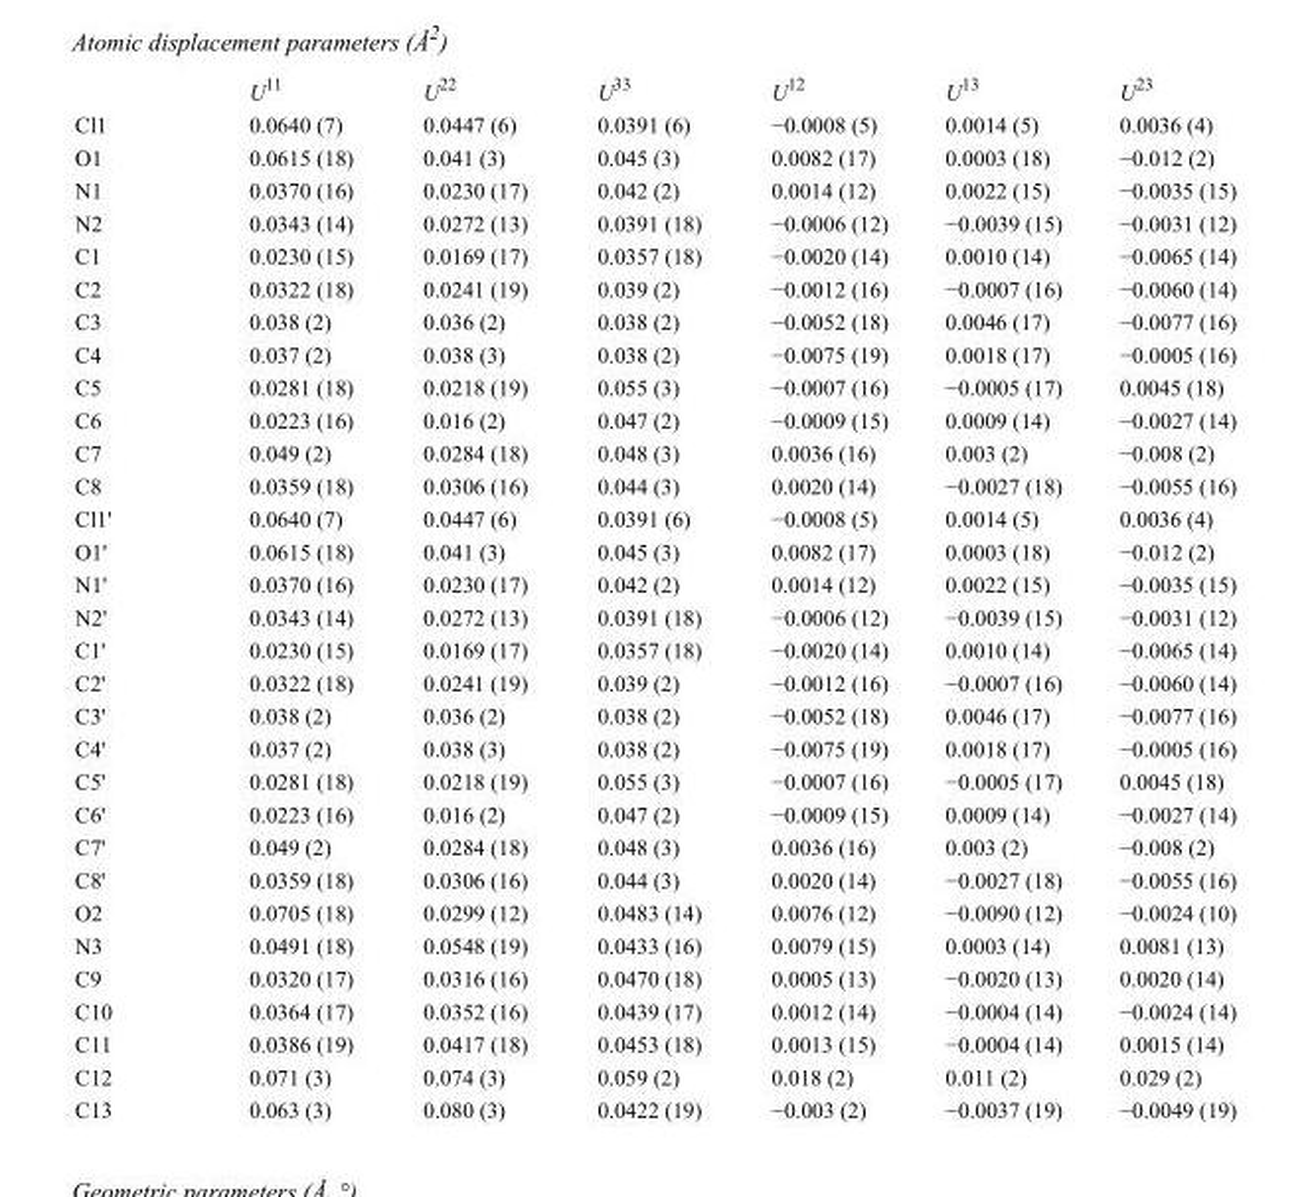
<table><thead><tr><td></td><td>U<sup>11</sup></td><td>U<sup>22</sup></td><td>U<sup>33</sup></td><td>U<sup>12</sup></td><td>U<sup>13</sup></td><td>U<sup>23</sup></td></tr></thead><tbody><tr><td>Cl1</td><td>0.0640 (7)</td><td>0.0447 (6)</td><td>0.0391 (6)</td><td>−0.0008 (5)</td><td>0.0014 (5)</td><td>0.0036 (4)</td></tr><tr><td>O1</td><td>0.0615 (18)</td><td>0.041 (3)</td><td>0.045 (3)</td><td>0.0082 (17)</td><td>0.0003 (18)</td><td>−0.012 (2)</td></tr><tr><td>N1</td><td>0.0370 (16)</td><td>0.0230 (17)</td><td>0.042 (2)</td><td>0.0014 (12)</td><td>0.0022 (15)</td><td>−0.0035 (15)</td></tr><tr><td>N2</td><td>0.0343 (14)</td><td>0.0272 (13)</td><td>0.0391 (18)</td><td>−0.0006 (12)</td><td>−0.0039 (15)</td><td>−0.0031 (12)</td></tr><tr><td>C1</td><td>0.0230 (15)</td><td>0.0169 (17)</td><td>0.0357 (18)</td><td>−0.0020 (14)</td><td>0.0010 (14)</td><td>−0.0065 (14)</td></tr><tr><td>C2</td><td>0.0322 (18)</td><td>0.0241 (19)</td><td>0.039 (2)</td><td>−0.0012 (16)</td><td>−0.0007 (16)</td><td>−0.0060 (14)</td></tr><tr><td>C3</td><td>0.038 (2)</td><td>0.036 (2)</td><td>0.038 (2)</td><td>−0.0052 (18)</td><td>0.0046 (17)</td><td>−0.0077 (16)</td></tr><tr><td>C4</td><td>0.037 (2)</td><td>0.038 (3)</td><td>0.038 (2)</td><td>−0.0075 (19)</td><td>0.0018 (17)</td><td>−0.0005 (16)</td></tr><tr><td>C5</td><td>0.0281 (18)</td><td>0.0218 (19)</td><td>0.055 (3)</td><td>−0.0007 (16)</td><td>−0.0005 (17)</td><td>0.0045 (18)</td></tr><tr><td>C6</td><td>0.0223 (16)</td><td>0.016 (2)</td><td>0.047 (2)</td><td>−0.0009 (15)</td><td>0.0009 (14)</td><td>−0.0027 (14)</td></tr><tr><td>C7</td><td>0.049 (2)</td><td>0.0284 (18)</td><td>0.048 (3)</td><td>0.0036 (16)</td><td>0.003 (2)</td><td>−0.008 (2)</td></tr><tr><td>C8</td><td>0.0359 (18)</td><td>0.0306 (16)</td><td>0.044 (3)</td><td>0.0020 (14)</td><td>−0.0027 (18)</td><td>−0.0055 (16)</td></tr><tr><td>Cl1&#x27;</td><td>0.0640 (7)</td><td>0.0447 (6)</td><td>0.0391 (6)</td><td>−0.0008 (5)</td><td>0.0014 (5)</td><td>0.0036 (4)</td></tr><tr><td>O1&#x27;</td><td>0.0615 (18)</td><td>0.041 (3)</td><td>0.045 (3)</td><td>0.0082 (17)</td><td>0.0003 (18)</td><td>−0.012 (2)</td></tr><tr><td>N1&#x27;</td><td>0.0370 (16)</td><td>0.0230 (17)</td><td>0.042 (2)</td><td>0.0014 (12)</td><td>0.0022 (15)</td><td>−0.0035 (15)</td></tr><tr><td>N2&#x27;</td><td>0.0343 (14)</td><td>0.0272 (13)</td><td>0.0391 (18)</td><td>−0.0006 (12)</td><td>−0.0039 (15)</td><td>−0.0031 (12)</td></tr><tr><td>C1&#x27;</td><td>0.0230 (15)</td><td>0.0169 (17)</td><td>0.0357 (18)</td><td>−0.0020 (14)</td><td>0.0010 (14)</td><td>−0.0065 (14)</td></tr><tr><td>C2&#x27;</td><td>0.0322 (18)</td><td>0.0241 (19)</td><td>0.039 (2)</td><td>−0.0012 (16)</td><td>−0.0007 (16)</td><td>−0.0060 (14)</td></tr><tr><td>C3&#x27;</td><td>0.038 (2)</td><td>0.036 (2)</td><td>0.038 (2)</td><td>−0.0052 (18)</td><td>0.0046 (17)</td><td>−0.0077 (16)</td></tr><tr><td>C4&#x27;</td><td>0.037 (2)</td><td>0.038 (3)</td><td>0.038 (2)</td><td>−0.0075 (19)</td><td>0.0018 (17)</td><td>−0.0005 (16)</td></tr><tr><td>C5&#x27;</td><td>0.0281 (18)</td><td>0.0218 (19)</td><td>0.055 (3)</td><td>−0.0007 (16)</td><td>−0.0005 (17)</td><td>0.0045 (18)</td></tr><tr><td>C6&#x27;</td><td>0.0223 (16)</td><td>0.016 (2)</td><td>0.047 (2)</td><td>−0.0009 (15)</td><td>0.0009 (14)</td><td>−0.0027 (14)</td></tr><tr><td>C7&#x27;</td><td>0.049 (2)</td><td>0.0284 (18)</td><td>0.048 (3)</td><td>0.0036 (16)</td><td>0.003 (2)</td><td>−0.008 (2)</td></tr><tr><td>C8&#x27;</td><td>0.0359 (18)</td><td>0.0306 (16)</td><td>0.044 (3)</td><td>0.0020 (14)</td><td>−0.0027 (18)</td><td>−0.0055 (16)</td></tr><tr><td>O2</td><td>0.0705 (18)</td><td>0.0299 (12)</td><td>0.0483 (14)</td><td>0.0076 (12)</td><td>−0.0090 (12)</td><td>−0.0024 (10)</td></tr><tr><td>N3</td><td>0.0491 (18)</td><td>0.0548 (19)</td><td>0.0433 (16)</td><td>0.0079 (15)</td><td>0.0003 (14)</td><td>0.0081 (13)</td></tr><tr><td>C9</td><td>0.0320 (17)</td><td>0.0316 (16)</td><td>0.0470 (18)</td><td>0.0005 (13)</td><td>−0.0020 (13)</td><td>0.0020 (14)</td></tr><tr><td>C10</td><td>0.0364 (17)</td><td>0.0352 (16)</td><td>0.0439 (17)</td><td>0.0012 (14)</td><td>−0.0004 (14)</td><td>−0.0024 (14)</td></tr><tr><td>C11</td><td>0.0386 (19)</td><td>0.0417 (18)</td><td>0.0453 (18)</td><td>0.0013 (15)</td><td>−0.0004 (14)</td><td>0.0015 (14)</td></tr><tr><td>C12</td><td>0.071 (3)</td><td>0.074 (3)</td><td>0.059 (2)</td><td>0.018 (2)</td><td>0.011 (2)</td><td>0.029 (2)</td></tr><tr><td>C13</td><td>0.063 (3)</td><td>0.080 (3)</td><td>0.0422 (19)</td><td>−0.003 (2)</td><td>−0.0037 (19)</td><td>−0.0049 (19)</td></tr></tbody></table>